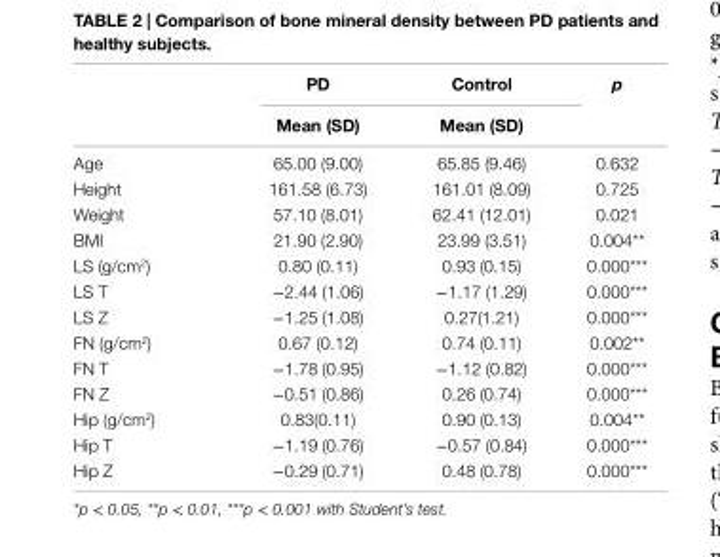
<table><thead><tr><td rowspan="2"></td><td rowspan="2">PD Mean (sD)</td><td rowspan="2">control Mean (sD)</td><td rowspan="2">p</td></tr><tr></tr></thead><tbody><tr><td>Age</td><td>65.00 (9.00)</td><td>65.85 (9.46)</td><td>0.632</td></tr><tr><td>Height</td><td>161.58 (6.73)</td><td>161.01 (8.09)</td><td>0.725</td></tr><tr><td>Weight</td><td>57.10 (8.01)</td><td>62.41 (12.01)</td><td>0.021</td></tr><tr><td>BMI</td><td>21.90 (2.90)</td><td>23.99 (3.51)</td><td>0.004**</td></tr><tr><td>LS (g/cm<sup>2</sup>)</td><td>0.80 (0.11)</td><td>0.93 (0.15)</td><td>0.000***</td></tr><tr><td>LS T</td><td>−2.44 (1.06)</td><td>−1.17 (1.29)</td><td>0.000***</td></tr><tr><td>LS Z</td><td>−1.25 (1.08)</td><td>0.27(1.21)</td><td>0.000***</td></tr><tr><td>FN (g/cm<sup>2</sup>)</td><td>0.67 (0.12)</td><td>0.74 (0.11)</td><td>0.002**</td></tr><tr><td>FN T</td><td>−1.78 (0.95)</td><td>−1.12 (0.82)</td><td>0.000***</td></tr><tr><td>FN Z</td><td>−0.51 (0.86)</td><td>0.26 (0.74)</td><td>0.000***</td></tr><tr><td>Hip (g/cm<sup>2</sup>)</td><td>0.83(0.11)</td><td>0.90 (0.13)</td><td>0.004**</td></tr><tr><td>Hip T</td><td>−1.19 (0.76)</td><td>−0.57 (0.84)</td><td>0.000***</td></tr><tr><td>Hip Z</td><td>−0.29 (0.71)</td><td>0.48 (0.78)</td><td>0.000***</td></tr></tbody></table>